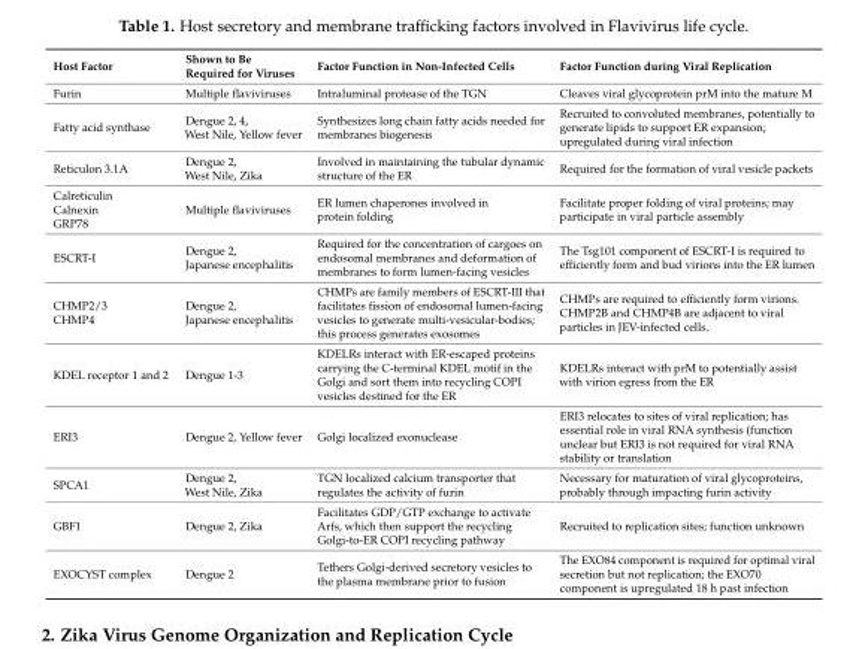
<table><thead><tr><td>Host Factor</td><td>Shown to Be Required for Viruses</td><td>Factor Function in Non-Infected Cells</td><td>Factor Function during Viral Replication</td></tr></thead><tbody><tr><td>Furin</td><td>Multiple flaviviruses</td><td>Intraluminal protease of the TGN</td><td>Cleaves viral glycoprotein prM into the mature M</td></tr><tr><td>Fatty acid synthase</td><td>Dengue 2, 4, West Nile, Yellow fever</td><td>Synthesizes long chain fatty acids needed for membranes biogenesis</td><td>Recruited to convoluted membranes, potentially to generate lipids to support ER expansion; upregulated during viral infection</td></tr><tr><td>Reticulon 3.1A</td><td>Dengue 2, West Nile, Zika</td><td>Involved in maintaining the tubular dynamic structure of the ER</td><td>Required for the formation of viral vesicle packets</td></tr><tr><td>Calreticulin Calnexin GRP78</td><td>Multiple flaviviruses</td><td>ER lumen chaperones involved in protein folding</td><td>Facilitate proper folding of viral proteins; may participate in viral particle assembly</td></tr><tr><td>ESCRT-I</td><td>Dengue 2, Japanese encephalitis</td><td>Required for the concentration of cargoes on endosomal membranes and deformation of membranes to form lumen-facing vesicles</td><td>The Tsg101 component of ESCRT-I is required to efficiently form and bud virions into the ER lumen</td></tr><tr><td>CHMP2/3 CHMP4</td><td>Dengue 2, Japanese encephalitis</td><td>CHMPs are family members of ESCRT-III that facilitates fission of endosomal lumen-facing vesicles to generate multi-vesicular-bodies; this process generates exosomes</td><td>CHMPs are required to efficiently form virions. CHMP2B and CHMP4B are adjacent to viral particles in JEV-infected cells.</td></tr><tr><td>KDEL receptor 1 and 2</td><td>Dengue 1-3</td><td>KDELRs interact with ER-escaped proteins carrying the C-terminal KDEL motif in the Golgi and sort them into recycling COPI vesicles destined for the ER</td><td>KDELRs interact with prM to potentially assist with virion egress from the ER</td></tr><tr><td>ERI3</td><td>Dengue 2, Yellow fever</td><td>Golgi localized exonuclease</td><td>ERI3 relocates to sites of viral replication; has essential role in viral RNA synthesis (function unclear but ERI3 is not required for viral RNA stability or translation</td></tr><tr><td>SPCA1</td><td>Dengue 2, West Nile, Zika</td><td>TGN localized calcium transporter that regulates the activity of furin</td><td>Necessary for maturation of viral glycoproteins, probably through impacting furin activity</td></tr><tr><td>GBF1</td><td>Dengue 2, Zika</td><td>Facilitates GDP/GTP exchange to activate Arfs, which then support the recycling Golgi-to-ER COPI recycling pathway</td><td>Recruited to replication sites; function unknown</td></tr><tr><td>EXOCYST complex</td><td>Dengue 2</td><td>Tethers Golgi-derived secretory vesicles to the plasma membrane prior to fusion</td><td>The EXO84 component is required for optimal viral secretion but not replication; the EXO70 component is upregulated 18 h past infection</td></tr></tbody></table>